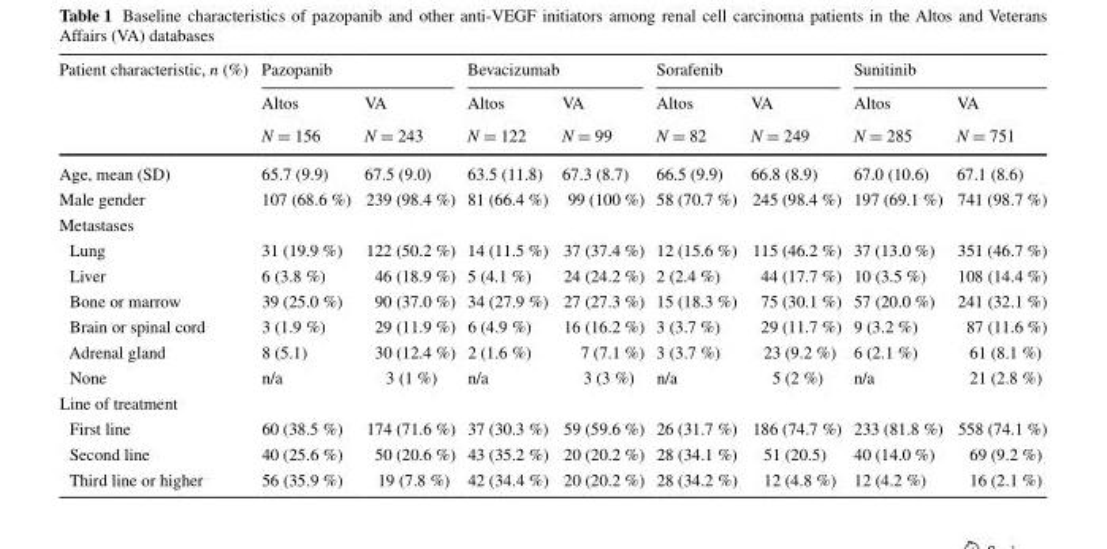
<table><thead><tr><td rowspan="3">Patient characteristic, n (%)</td><td colspan="2">Pazopanib</td><td colspan="2">Bevacizumab</td><td colspan="2">Sorafenib</td><td colspan="2">Sunitinib</td></tr><tr><td rowspan="2">Altos N = 156</td><td rowspan="2">VA N = 243</td><td rowspan="2">Altos N = 122</td><td rowspan="2">VA N = 99</td><td rowspan="2">Altos N = 82</td><td rowspan="2">VA N = 249</td><td rowspan="2">Altos N = 285</td><td rowspan="2">VA N = 751</td></tr><tr></tr></thead><tbody><tr><td>Age, mean (SD)</td><td>65.7 (9.9)</td><td>67.5 (9.0)</td><td>63.5 (11.8)</td><td>67.3 (8.7)</td><td>66.5 (9.9)</td><td>66.8 (8.9)</td><td>67.0 (10.6)</td><td>67.1 (8.6)</td></tr><tr><td>Male gender</td><td>107 (68.6 %)</td><td>239 (98.4 %)</td><td>81 (66.4 %)</td><td>99 (100 %)</td><td>58 (70.7 %)</td><td>245 (98.4 %)</td><td>197 (69.1 %)</td><td>741 (98.7 %)</td></tr><tr><td colspan="9">Metastases</td></tr><tr><td>Lung</td><td>31 (19.9 %)</td><td>122 (50.2 %)</td><td>14 (11.5 %)</td><td>37 (37.4 %)</td><td>12 (15.6 %)</td><td>115 (46.2 %)</td><td>37 (13.0 %)</td><td>351 (46.7 %)</td></tr><tr><td>Liver</td><td>6 (3.8 %)</td><td>46 (18.9 %)</td><td>5 (4.1 %)</td><td>24 (24.2 %)</td><td>2 (2.4 %)</td><td>44 (17.7 %)</td><td>10 (3.5 %)</td><td>108 (14.4 %)</td></tr><tr><td>Bone or marrow</td><td>39 (25.0 %)</td><td>90 (37.0 %)</td><td>34 (27.9 %)</td><td>27 (27.3 %)</td><td>15 (18.3 %)</td><td>75 (30.1 %)</td><td>57 (20.0 %)</td><td>241 (32.1 %)</td></tr><tr><td>Brain or spinal cord</td><td>3 (1.9 %)</td><td>29 (11.9 %)</td><td>6 (4.9 %)</td><td>16 (16.2 %)</td><td>3 (3.7 %)</td><td>29 (11.7 %)</td><td>9 (3.2 %)</td><td>87 (11.6 %)</td></tr><tr><td>Adrenal gland</td><td>8 (5.1)</td><td>30 (12.4 %)</td><td>2 (1.6 %)</td><td>7 (7.1 %)</td><td>3 (3.7 %)</td><td>23 (9.2 %)</td><td>6 (2.1 %)</td><td>61 (8.1 %)</td></tr><tr><td>None</td><td>n/a</td><td>3 (1 %)</td><td>n/a</td><td>3 (3 %)</td><td>n/a</td><td>5 (2 %)</td><td>n/a</td><td>21 (2.8 %)</td></tr><tr><td colspan="9">Line of treatment</td></tr><tr><td>First line</td><td>60 (38.5 %)</td><td>174 (71.6 %)</td><td>37 (30.3 %)</td><td>59 (59.6 %)</td><td>26 (31.7 %)</td><td>186 (74.7 %)</td><td>233 (81.8 %)</td><td>558 (74.1 %)</td></tr><tr><td>Second line</td><td>40 (25.6 %)</td><td>50 (20.6 %)</td><td>43 (35.2 %)</td><td>20 (20.2 %)</td><td>28 (34.1 %)</td><td>51 (20.5)</td><td>40 (14.0 %)</td><td>69 (9.2 %)</td></tr><tr><td>Third line or higher</td><td>56 (35.9 %)</td><td>19 (7.8 %)</td><td>42 (34.4 %)</td><td>20 (20.2 %)</td><td>28 (34.2 %)</td><td>12 (4.8 %)</td><td>12 (4.2 %)</td><td>16 (2.1 %)</td></tr></tbody></table>